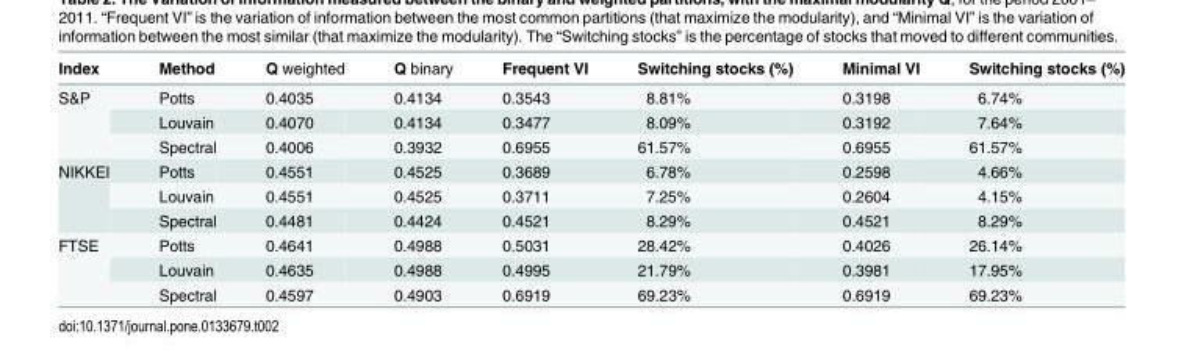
<table><thead><tr><td>Index</td><td>Method</td><td>Q weighted</td><td>Q binary</td><td>Frequent VI</td><td>Switching stocks (%)</td><td>Minimal VI</td><td>Switching stocks (%)</td></tr></thead><tbody><tr><td rowspan="3">S&amp;P</td><td>Potts</td><td>0.4035</td><td>0.4134</td><td>0.3543</td><td>8.81%</td><td>0.3198</td><td>6.74%</td></tr><tr><td>Louvain</td><td>0.4070</td><td>0.4134</td><td>0.3477</td><td>8.09%</td><td>0.3192</td><td>7.64%</td></tr><tr><td>Spectral</td><td>0.4006</td><td>0.3932</td><td>0.6955</td><td>61.57%</td><td>0.6955</td><td>61.57%</td></tr><tr><td rowspan="3">NIKKEI</td><td>Potts</td><td>0.4551</td><td>0.4525</td><td>0.3689</td><td>6.78%</td><td>0.2598</td><td>4.66%</td></tr><tr><td>Louvain</td><td>0.4551</td><td>0.4525</td><td>0.3711</td><td>7.25%</td><td>0.2604</td><td>4.15%</td></tr><tr><td>Spectral</td><td>0.4481</td><td>0.4424</td><td>0.4521</td><td>8.29%</td><td>0.4521</td><td>8.29%</td></tr><tr><td rowspan="3">FTSE</td><td>Potts</td><td>0.4641</td><td>0.4988</td><td>0.5031</td><td>28.42%</td><td>0.4026</td><td>26.14%</td></tr><tr><td>Louvain</td><td>0.4635</td><td>0.4988</td><td>0.4995</td><td>21.79%</td><td>0.3981</td><td>17.95%</td></tr><tr><td>Spectral</td><td>0.4597</td><td>0.4903</td><td>0.6919</td><td>69.23%</td><td>0.6919</td><td>69.23%</td></tr></tbody></table>